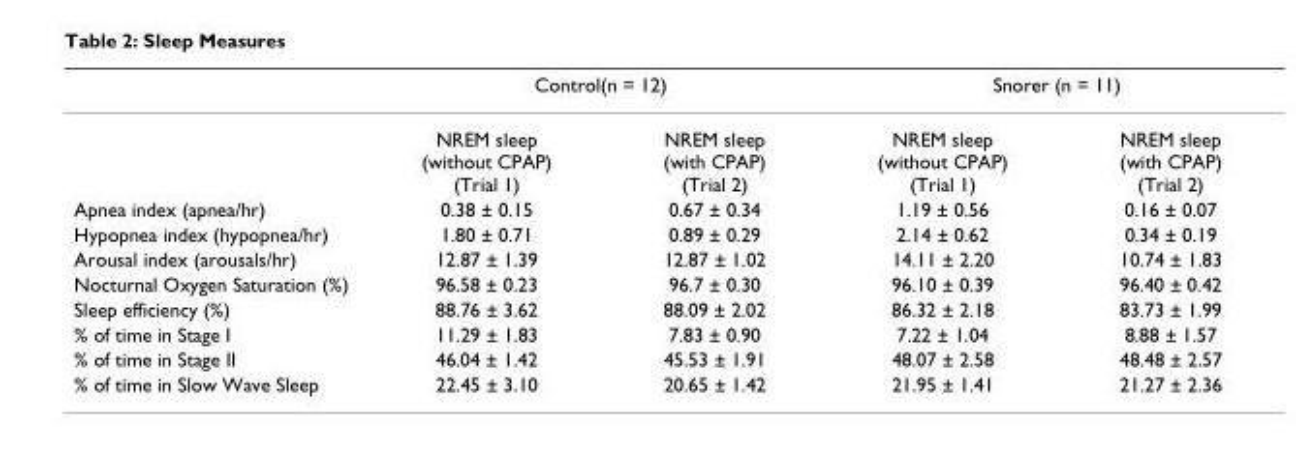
<table><thead><tr><td rowspan="2"></td><td colspan="2">Control(n = 12)</td><td colspan="2">Snorer (n = 11)</td></tr><tr><td>NREM sleep (without CPAP) (Trial 1)</td><td>NREM sleep (with CPAP) (Trial 2)</td><td>NREM sleep (without CPAP) (Trial 1)</td><td>NREM sleep (with CPAP) (Trial 2)</td></tr></thead><tbody><tr><td>Apnea index (apnea/hr)</td><td>0.38 ± 0.15</td><td>0.67 ± 0.34</td><td>1.19 ± 0.56</td><td>0.16 ± 0.07</td></tr><tr><td>Hypopnea index (hypopnea/hr)</td><td>1.80 ± 0.71</td><td>0.89 ± 0.29</td><td>2.14 ± 0.62</td><td>0.34 ± 0.19</td></tr><tr><td>Arousal index (arousals/hr)</td><td>12.87 ± 1.39</td><td>12.87 ± 1.02</td><td>14.11 ± 2.20</td><td>10.74 ± 1.83</td></tr><tr><td>Nocturnal Oxygen Saturation (%)</td><td>96.58 ± 0.23</td><td>96.7 ± 0.30</td><td>96.10 ± 0.39</td><td>96.40 ± 0.42</td></tr><tr><td>Sleep efficiency (%)</td><td>88.76 ± 3.62</td><td>88.09 ± 2.02</td><td>86.32 ± 2.18</td><td>83.73 ± 1.99</td></tr><tr><td>% of time in Stage I</td><td>11.29 ± 1.83</td><td>7.83 ± 0.90</td><td>7.22 ± 1.04</td><td>8.88 ± 1.57</td></tr><tr><td>% of time in Stage II</td><td>46.04 ± 1.42</td><td>45.53 ± 1.91</td><td>48.07 ± 2.58</td><td>48.48 ± 2.57</td></tr><tr><td>% of time in Slow Wave Sleep</td><td>22.45 ± 3.10</td><td>20.65 ± 1.42</td><td>21.95 ± 1.41</td><td>21.27 ± 2.36</td></tr></tbody></table>